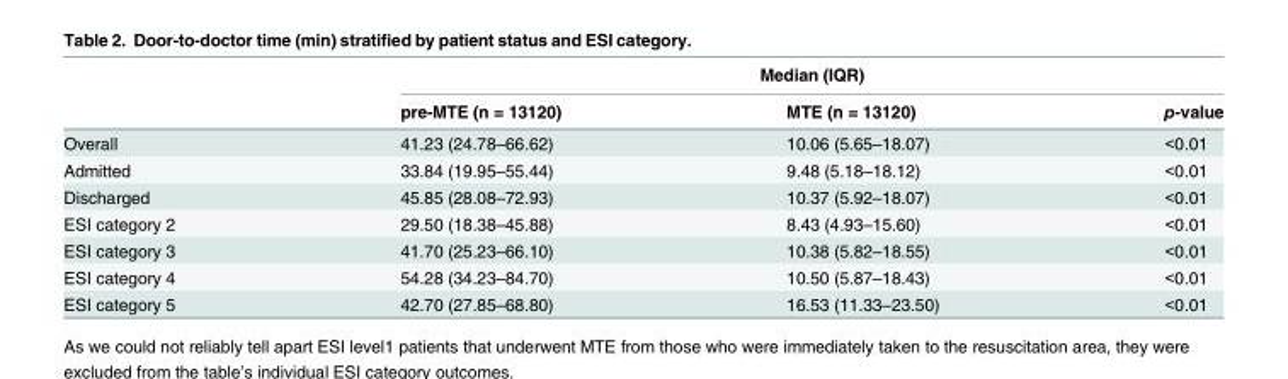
<table><thead><tr><td rowspan="2"></td><td colspan="3">Median (IQR)</td></tr><tr><td>pre-MTE (n = 13120)</td><td>MTE (n = 13120)</td><td>p-value</td></tr></thead><tbody><tr><td>Overall</td><td>41.23 (24.78–66.62)</td><td>10.06 (5.65–18.07)</td><td>&lt;0.01</td></tr><tr><td>Admitted</td><td>33.84 (19.95–55.44)</td><td>9.48 (5.18–18.12)</td><td>&lt;0.01</td></tr><tr><td>Discharged</td><td>45.85 (28.08–72.93)</td><td>10.37 (5.92–18.07)</td><td>&lt;0.01</td></tr><tr><td>ESI category 2</td><td>29.50 (18.38–45.88)</td><td>8.43 (4.93–15.60)</td><td>&lt;0.01</td></tr><tr><td>ESI category 3</td><td>41.70 (25.23–66.10)</td><td>10.38 (5.82–18.55)</td><td>&lt;0.01</td></tr><tr><td>ESI category 4</td><td>54.28 (34.23–84.70)</td><td>10.50 (5.87–18.43)</td><td>&lt;0.01</td></tr><tr><td>ESI category 5</td><td>42.70 (27.85–68.80)</td><td>16.53 (11.33–23.50)</td><td>&lt;0.01</td></tr></tbody></table>